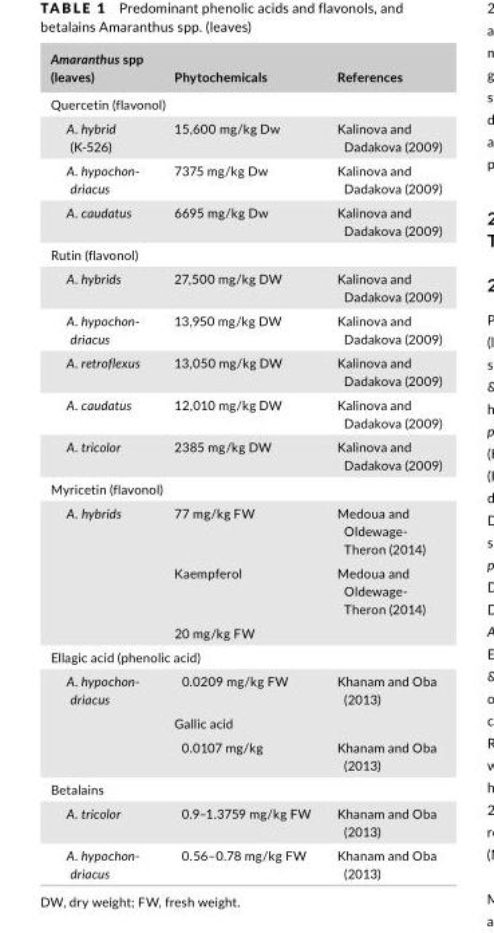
<table><thead><tr><td>Amaranthus spp (leaves)</td><td>Phytochemicals</td><td>References</td></tr></thead><tbody><tr><td colspan="3">Quercetin (flavonol)</td></tr><tr><td>A. hybrid (K- 526)</td><td>15,600 mg/kg Dw</td><td>Kalinova and Dadakova (2009)</td></tr><tr><td>A. hypochon- driacus</td><td>7375 mg/kg Dw</td><td>Kalinova and Dadakova (2009)</td></tr><tr><td>A. caudatus</td><td>6695 mg/kg Dw</td><td>Kalinova and Dadakova (2009)</td></tr><tr><td colspan="3">Rutin (flavonol)</td></tr><tr><td>A. hybrids</td><td>27,500 mg/kg DW</td><td>Kalinova and Dadakova (2009)</td></tr><tr><td>A. hypochon- driacus</td><td>13,950 mg/kg DW</td><td>Kalinova and Dadakova (2009)</td></tr><tr><td>A. retroflexus</td><td>13,050 mg/kg DW</td><td>Kalinova and Dadakova (2009)</td></tr><tr><td>A. caudatus</td><td>12,010 mg/kg DW</td><td>Kalinova and Dadakova (2009)</td></tr><tr><td>A. tricolor</td><td>2385 mg/kg DW</td><td>Kalinova and Dadakova (2009)</td></tr><tr><td colspan="3">Myricetin (flavonol)</td></tr><tr><td rowspan="3">A. hybrids</td><td>77 mg/kg FW</td><td>Medoua and Oldewage- Theron (2014)</td></tr><tr><td>Kaempferol</td><td>Medoua and Oldewage- Theron (2014)</td></tr><tr><td>20 mg/kg FW</td><td></td></tr><tr><td colspan="3">Ellagic acid (phenolic acid)</td></tr><tr><td rowspan="3">A. hypochon- driacus</td><td>0.0209 mg/kg FW</td><td>Khanam and Oba (2013)</td></tr><tr><td>Gallic acid</td><td></td></tr><tr><td>0.0107 mg/kg</td><td>Khanam and Oba (2013)</td></tr><tr><td colspan="3">Betalains</td></tr><tr><td>A. tricolor</td><td>0.9–1.3759 mg/kg FW</td><td>Khanam and Oba (2013)</td></tr><tr><td>A. hypochon- driacus</td><td>0.56–0.78 mg/kg FW</td><td>Khanam and Oba (2013)</td></tr></tbody></table>